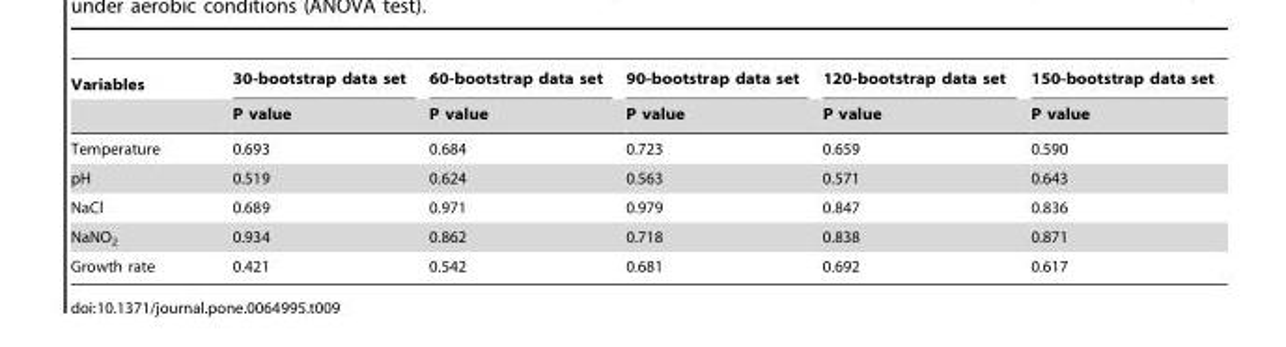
<table><thead><tr><td rowspan="2">Variables</td><td rowspan="2">30-bootstrap data set P value</td><td rowspan="2">60-bootstrap data set P value</td><td rowspan="2">90-bootstrap data set P value</td><td rowspan="2">120-bootstrap data set P value</td><td rowspan="2">150-bootstrap data set P value</td></tr><tr></tr></thead><tbody><tr><td>Temperature</td><td>0.693</td><td>0.684</td><td>0.723</td><td>0.659</td><td>0.590</td></tr><tr><td>pH</td><td>0.519</td><td>0.624</td><td>0.563</td><td>0.571</td><td>0.643</td></tr><tr><td>NaCl</td><td>0.689</td><td>0.971</td><td>0.979</td><td>0.847</td><td>0.836</td></tr><tr><td>NaNO<sub>2</sub></td><td>0.934</td><td>0.862</td><td>0.718</td><td>0.838</td><td>0.871</td></tr><tr><td>Growth rate</td><td>0.421</td><td>0.542</td><td>0.681</td><td>0.692</td><td>0.617</td></tr></tbody></table>